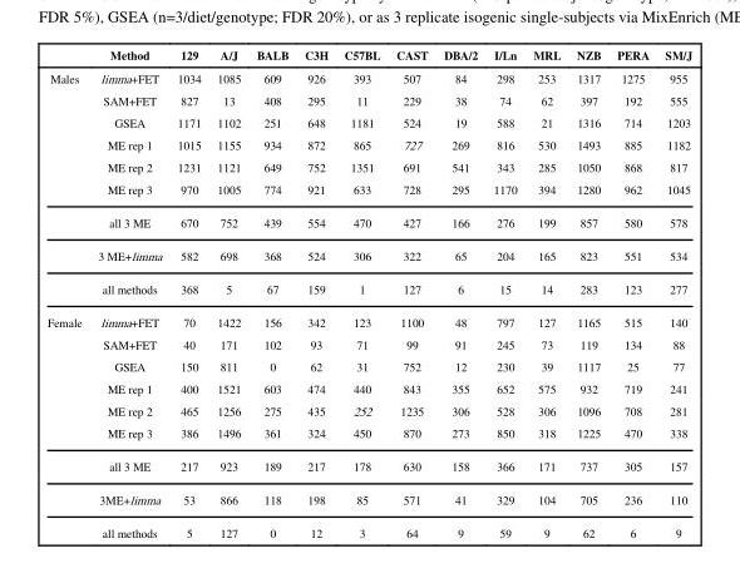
<table><thead><tr><td></td><td>Method</td><td>129</td><td>A/J</td><td>BALB</td><td>C3H</td><td>C57BL</td><td>CAST</td><td>DBA/2</td><td>I/Ln</td><td>MRL</td><td>NZB</td><td>PERA</td><td>SM/J</td></tr></thead><tbody><tr><td rowspan="9">Males</td><td>limma+FET</td><td>1034</td><td>1085</td><td>609</td><td>926</td><td>393</td><td>507</td><td>84</td><td>298</td><td>253</td><td>1317</td><td>1275</td><td>955</td></tr><tr><td>SAM+FET</td><td>827</td><td>13</td><td>408</td><td>295</td><td>11</td><td>229</td><td>38</td><td>74</td><td>62</td><td>397</td><td>192</td><td>555</td></tr><tr><td>GSEA</td><td>1171</td><td>1102</td><td>251</td><td>648</td><td>1181</td><td>524</td><td>19</td><td>588</td><td>21</td><td>1316</td><td>714</td><td>1203</td></tr><tr><td>ME rep 1</td><td>1015</td><td>1155</td><td>934</td><td>872</td><td>865</td><td>727</td><td>269</td><td>816</td><td>530</td><td>1493</td><td>885</td><td>1182</td></tr><tr><td>ME rep 2</td><td>1231</td><td>1121</td><td>649</td><td>752</td><td>1351</td><td>691</td><td>541</td><td>343</td><td>285</td><td>1050</td><td>868</td><td>817</td></tr><tr><td>ME rep 3</td><td>970</td><td>1005</td><td>774</td><td>921</td><td>633</td><td>728</td><td>295</td><td>1170</td><td>394</td><td>1280</td><td>962</td><td>1045</td></tr><tr><td>all 3 ME</td><td>670</td><td>752</td><td>439</td><td>554</td><td>470</td><td>427</td><td>166</td><td>276</td><td>199</td><td>857</td><td>580</td><td>578</td></tr><tr><td>3 ME+limma</td><td>582</td><td>698</td><td>368</td><td>524</td><td>306</td><td>322</td><td>65</td><td>204</td><td>165</td><td>823</td><td>551</td><td>534</td></tr><tr><td>all methods</td><td>368</td><td>5</td><td>67</td><td>159</td><td>1</td><td>127</td><td>6</td><td>15</td><td>14</td><td>283</td><td>123</td><td>277</td></tr><tr><td rowspan="9">Female</td><td>limma+FET</td><td>70</td><td>1422</td><td>156</td><td>342</td><td>123</td><td>1100</td><td>48</td><td>797</td><td>127</td><td>1165</td><td>515</td><td>140</td></tr><tr><td>SAM+FET</td><td>40</td><td>171</td><td>102</td><td>93</td><td>71</td><td>99</td><td>91</td><td>245</td><td>73</td><td>119</td><td>134</td><td>88</td></tr><tr><td>GSEA</td><td>150</td><td>811</td><td>0</td><td>62</td><td>31</td><td>752</td><td>12</td><td>230</td><td>39</td><td>1117</td><td>25</td><td>77</td></tr><tr><td>ME rep 1</td><td>400</td><td>1521</td><td>603</td><td>474</td><td>440</td><td>843</td><td>355</td><td>652</td><td>575</td><td>932</td><td>719</td><td>241</td></tr><tr><td>ME rep 2</td><td>465</td><td>1256</td><td>275</td><td>435</td><td>252</td><td>1235</td><td>306</td><td>528</td><td>306</td><td>1096</td><td>708</td><td>281</td></tr><tr><td>ME rep 3</td><td>386</td><td>1496</td><td>361</td><td>324</td><td>450</td><td>870</td><td>273</td><td>850</td><td>318</td><td>1225</td><td>470</td><td>338</td></tr><tr><td>all 3 ME</td><td>217</td><td>923</td><td>189</td><td>217</td><td>178</td><td>630</td><td>158</td><td>366</td><td>171</td><td>737</td><td>305</td><td>157</td></tr><tr><td>3ME+limma</td><td>53</td><td>866</td><td>118</td><td>198</td><td>85</td><td>571</td><td>41</td><td>329</td><td>104</td><td>705</td><td>236</td><td>110</td></tr><tr><td>all methods</td><td>5</td><td>127</td><td>0</td><td>12</td><td>3</td><td>64</td><td>9</td><td>59</td><td>9</td><td>62</td><td>6</td><td>9</td></tr></tbody></table>